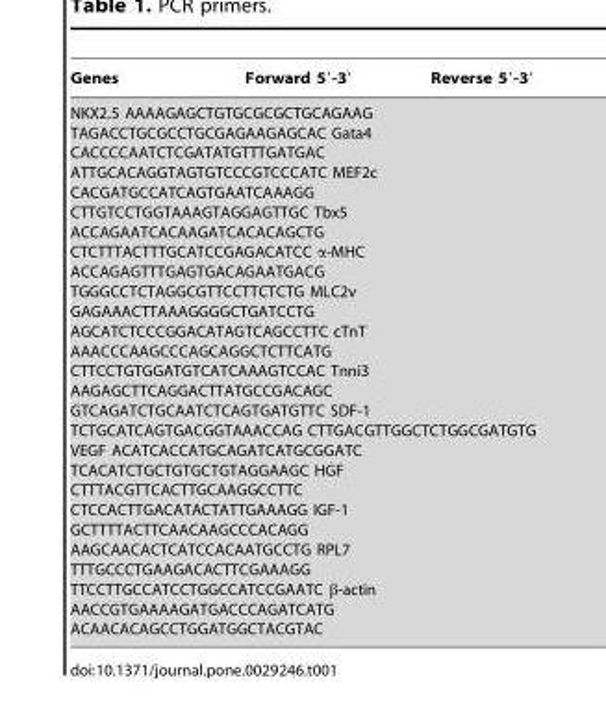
<table><thead><tr><td>Genes</td><td>Forward 5′-3′</td><td>Reverse 5′-3′</td></tr></thead><tbody><tr><td colspan="3">NKX2.5 AAAAGAGCTGTGCGCGCTGCAGAAG TAGACCTGCGCCTGCGAGAAGAGCAC Gata4 CACCCCAATCTCGATATGTTTGATGAC ATTGCACAGGTAGTGTCCCGTCCCATC MEF2c CACGATGCCATCAGTGAATCAAAGG CTTGTCCTGGTAAAGTAGGAGTTGC Tbx5 ACCAGAATCACAAGATCACACAGCTG CTCTTTACTTTGCATCCGAGACATCC α-MHC ACCAGAGTTTGAGTGACAGAATGACG TGGGCCTCTAGGCGTTCCTTCTCTG MLC2v GAGAAACTTAAAGGGGCTGATCCTG AGCATCTCCCGGACATAGTCAGCCTTC cTnT AAACCCAAGCCCAGCAGGCTCTTCATG CTTCCTGTGGATGTCATCAAAGTCCAC Tnni3 AAGAGCTTCAGGACTTATGCCGACAGC GTCAGATCTGCAATCTCAGTGATGTTC SDF-1 TCTGCATCAGTGACGGTAAACCAG CTTGACGTTGGCTCTGGCGATGTG VEGF ACATCACCATGCAGATCATGCGGATC TCACATCTGCTGTGCTGTAGGAAGC HGF CTTTACGTTCACTTGCAAGGCCTTC CTCCACTTGACATACTATTGAAAGG IGF-1 GCTTTTACTTCAACAAGCCCACAGG AAGCAACACTCATCCACAATGCCTG RPL7 TTTGCCCTGAAGACACTTCGAAAGG TTCCTTGCCATCCTGGCCATCCGAATC β-actin AACCGTGAAAAGATGACCCAGATCATG ACAACACAGCCTGGATGGCTACGTAC</td></tr></tbody></table>